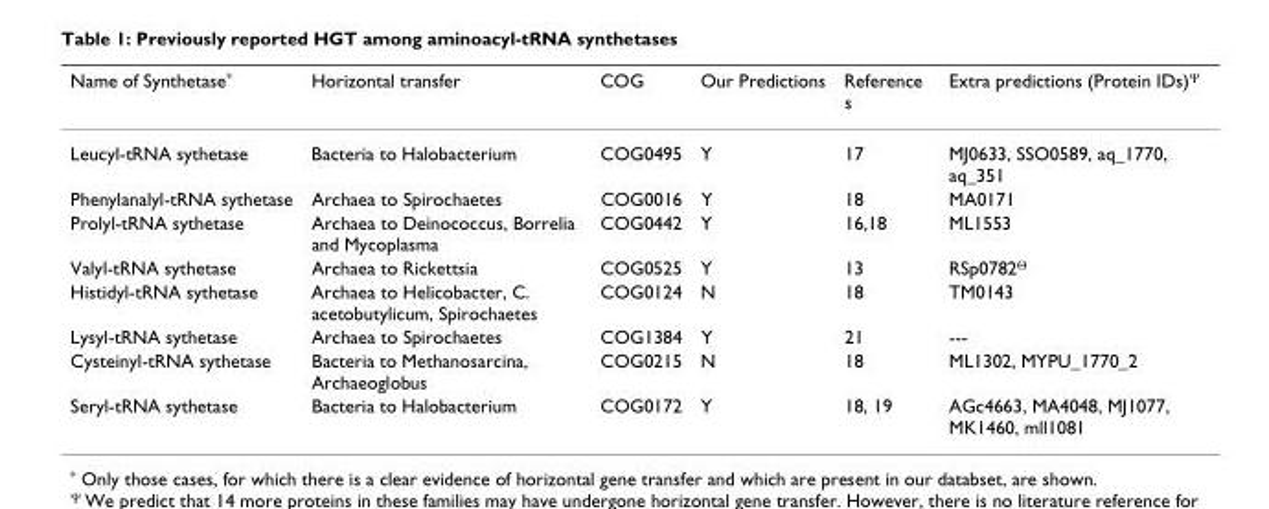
<table><thead><tr><td>Name of Synthetase*</td><td>Horizontal transfer</td><td>COG</td><td>Our Predictions</td><td>Reference s</td><td>Extra predictions (Protein IDs)<sup>Ψ</sup></td></tr></thead><tbody><tr><td>Leucyl-tRNA sythetase</td><td>Bacteria to Halobacterium</td><td>COG0495</td><td>Y</td><td>17</td><td>MJ0633, SSO0589, aq_1770, aq_351</td></tr><tr><td>Phenylanalyl-tRNA sythetase</td><td>Archaea to Spirochaetes</td><td>COG0016</td><td>Y</td><td>18</td><td>MA0171</td></tr><tr><td>Prolyl-tRNA sythetase</td><td>Archaea to Deinococcus, Borrelia and Mycoplasma</td><td>COG0442</td><td>Y</td><td>16,18</td><td>ML1553</td></tr><tr><td>Valyl-tRNA sythetase</td><td>Archaea to Rickettsia</td><td>COG0525</td><td>Y</td><td>13</td><td>RSp0782<sup>Θ</sup></td></tr><tr><td>Histidyl-tRNA sythetase</td><td>Archaea to Helicobacter, C. acetobutylicum, Spirochaetes</td><td>COG0124</td><td>N</td><td>18</td><td>TM0143</td></tr><tr><td>Lysyl-tRNA sythetase</td><td>Archaea to Spirochaetes</td><td>COG1384</td><td>Y</td><td>21</td><td>---</td></tr><tr><td>Cysteinyl-tRNA sythetase</td><td>Bacteria to Methanosarcina, Archaeoglobus</td><td>COG0215</td><td>N</td><td>18</td><td>ML1302, MYPU_1770_2</td></tr><tr><td>Seryl-tRNA sythetase</td><td>Bacteria to Halobacterium</td><td>COG0172</td><td>Y</td><td>18, 19</td><td>AGc4663, MA4048, MJ1077, MK1460, mll1081</td></tr></tbody></table>